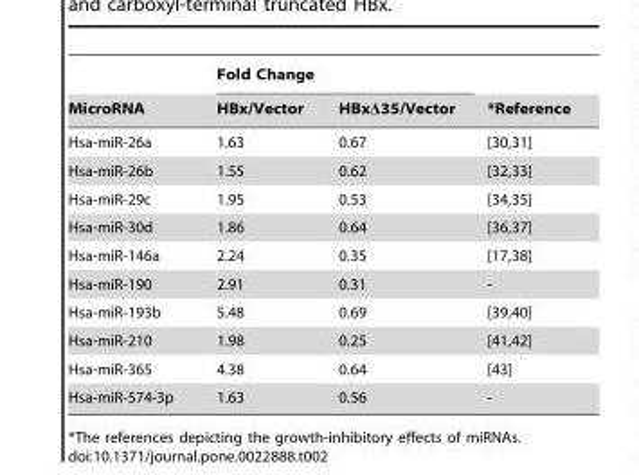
<table><thead><tr><td rowspan="2">MicroRNA</td><td colspan="2">Fold Change</td><td rowspan="2">*Reference</td></tr><tr><td>HBx/Vector</td><td>HBxΔ35/Vector</td></tr></thead><tbody><tr><td>Hsa-miR-26a</td><td>1.63</td><td>0.67</td><td>[30,31]</td></tr><tr><td>Hsa-miR-26b</td><td>1.55</td><td>0.62</td><td>[32,33]</td></tr><tr><td>Hsa-miR-29c</td><td>1.95</td><td>0.53</td><td>[34,35]</td></tr><tr><td>Hsa-miR-30d</td><td>1.86</td><td>0.64</td><td>[36,37]</td></tr><tr><td>Hsa-miR-146a</td><td>2.24</td><td>0.35</td><td>[17,38]</td></tr><tr><td>Hsa-miR-190</td><td>2.91</td><td>0.31</td><td>-</td></tr><tr><td>Hsa-miR-193b</td><td>5.48</td><td>0.69</td><td>[39,40]</td></tr><tr><td>Hsa-miR-210</td><td>1.98</td><td>0.25</td><td>[41,42]</td></tr><tr><td>Hsa-miR-365</td><td>4.38</td><td>0.64</td><td>[43]</td></tr><tr><td>Hsa-miR-574-3p</td><td>1.63</td><td>0.56</td><td>-</td></tr></tbody></table>